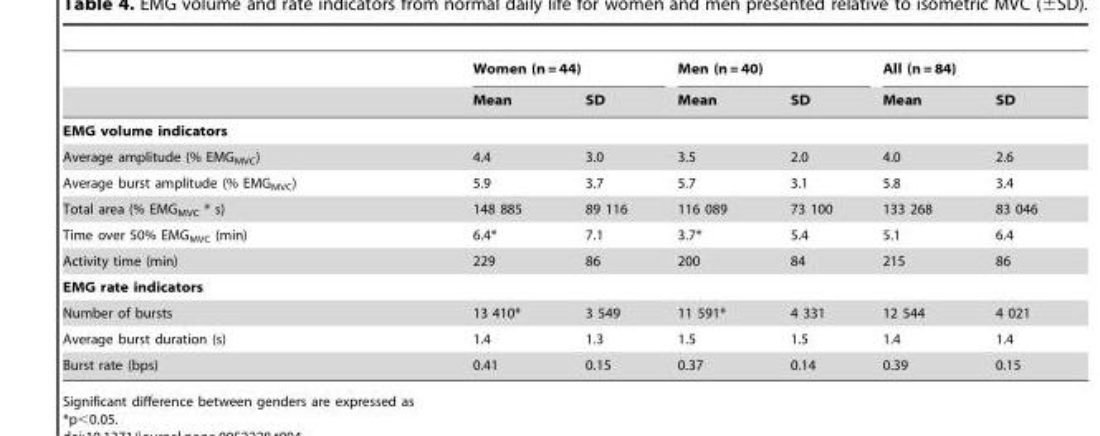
<table><thead><tr><td rowspan="2"></td><td colspan="2">Women (n = 44)</td><td colspan="2">Men (n = 40)</td><td colspan="2">All (n = 84)</td></tr><tr><td>Mean</td><td>SD</td><td>Mean</td><td>SD</td><td>Mean</td><td>SD</td></tr></thead><tbody><tr><td colspan="7">EMG volume indicators</td></tr><tr><td>Average amplitude (% EMG<sub>MVC</sub>)</td><td>4.4</td><td>3.0</td><td>3.5</td><td>2.0</td><td>4.0</td><td>2.6</td></tr><tr><td>Average burst amplitude (% EMG<sub>MVC</sub>)</td><td>5.9</td><td>3.7</td><td>5.7</td><td>3.1</td><td>5.8</td><td>3.4</td></tr><tr><td>Total area (% EMG<sub>MVC</sub> * s)</td><td>148 885</td><td>89 116</td><td>116 089</td><td>73 100</td><td>133 268</td><td>83 046</td></tr><tr><td>Time over 50% EMG<sub>MVC</sub> (min)</td><td>6.4*</td><td>7.1</td><td>3.7*</td><td>5.4</td><td>5.1</td><td>6.4</td></tr><tr><td>Activity time (min)</td><td>229</td><td>86</td><td>200</td><td>84</td><td>215</td><td>86</td></tr><tr><td colspan="7">EMG rate indicators</td></tr><tr><td>Number of bursts</td><td>13 410*</td><td>3 549</td><td>11 591*</td><td>4 331</td><td>12 544</td><td>4 021</td></tr><tr><td>Average burst duration (s)</td><td>1.4</td><td>1.3</td><td>1.5</td><td>1.5</td><td>1.4</td><td>1.4</td></tr><tr><td>Burst rate (bps)</td><td>0.41</td><td>0.15</td><td>0.37</td><td>0.14</td><td>0.39</td><td>0.15</td></tr></tbody></table>